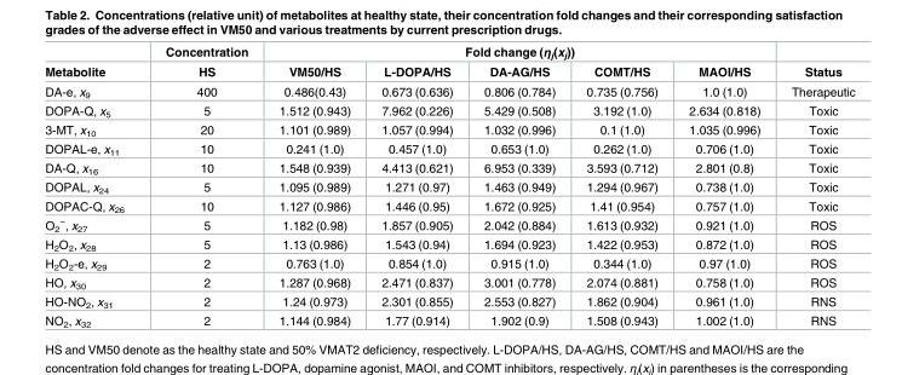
<table><thead><tr><td rowspan="2">Metabolite</td><td rowspan="2">Concentration HS</td><td colspan="5">Fold change (η<sub>j</sub>(x<sub>j</sub>))</td><td rowspan="2">Status</td></tr><tr><td>VM50/HS</td><td>L-DOPA/HS</td><td>DA-AG/HS</td><td>COMT/HS</td><td>MAOI/HS</td></tr></thead><tbody><tr><td>DA-e, x<sub>9</sub></td><td>400</td><td>0.486(0.43)</td><td>0.673 (0.636)</td><td>0.806 (0.784)</td><td>0.735 (0.756)</td><td>1.0 (1.0)</td><td>Therapeutic</td></tr><tr><td>DOPA-Q, x<sub>5</sub></td><td>5</td><td>1.512 (0.943)</td><td>7.962 (0.226)</td><td>5.429 (0.508)</td><td>3.192 (1.0)</td><td>2.634 (0.818)</td><td>Toxic</td></tr><tr><td>3-MT, x<sub>10</sub></td><td>20</td><td>1.101 (0.989)</td><td>1.057 (0.994)</td><td>1.032 (0.996)</td><td>0.1 (1.0)</td><td>1.035 (0.996)</td><td>Toxic</td></tr><tr><td>DOPAL-e, x<sub>11</sub></td><td>10</td><td>0.241 (1.0)</td><td>0.457 (1.0)</td><td>0.653 (1.0)</td><td>0.262 (1.0)</td><td>0.706 (1.0)</td><td>Toxic</td></tr><tr><td>DA-Q, x<sub>16</sub></td><td>10</td><td>1.548 (0.939)</td><td>4.413 (0.621)</td><td>6.953 (0.339)</td><td>3.593 (0.712)</td><td>2.801 (0.8)</td><td>Toxic</td></tr><tr><td>DOPAL, x<sub>24</sub></td><td>5</td><td>1.095 (0.989)</td><td>1.271 (0.97)</td><td>1.463 (0.949)</td><td>1.294 (0.967)</td><td>0.738 (1.0)</td><td>Toxic</td></tr><tr><td>DOPAC-Q, x<sub>26</sub></td><td>10</td><td>1.127 (0.986)</td><td>1.446 (0.95)</td><td>1.672 (0.925)</td><td>1.41 (0.954)</td><td>0.757 (1.0)</td><td>Toxic</td></tr><tr><td>O<sub>2</sub> <sup>−</sup>, x<sub>27</sub></td><td>5</td><td>1.182 (0.98)</td><td>1.857 (0.905)</td><td>2.042 (0.884)</td><td>1.613 (0.932)</td><td>0.921 (1.0)</td><td>ROS</td></tr><tr><td>H<sub>2</sub>O<sub>2</sub>, x<sub>28</sub></td><td>5</td><td>1.13 (0.986)</td><td>1.543 (0.94)</td><td>1.694 (0.923)</td><td>1.422 (0.953)</td><td>0.872 (1.0)</td><td>ROS</td></tr><tr><td>H<sub>2</sub>O<sub>2</sub>-e, x<sub>29</sub></td><td>2</td><td>0.763 (1.0)</td><td>0.854 (1.0)</td><td>0.915 (1.0)</td><td>0.344 (1.0)</td><td>0.97 (1.0)</td><td>ROS</td></tr><tr><td>HO, x<sub>30</sub></td><td>2</td><td>1.287 (0.968)</td><td>2.471 (0.837)</td><td>3.001 (0.778)</td><td>2.074 (0.881)</td><td>0.758 (1.0)</td><td>ROS</td></tr><tr><td>HO-NO<sub>2</sub>, x<sub>31</sub></td><td>2</td><td>1.24 (0.973)</td><td>2.301 (0.855)</td><td>2.553 (0.827)</td><td>1.862 (0.904)</td><td>0.961 (1.0)</td><td>RNS</td></tr><tr><td>NO<sub>2</sub>, x<sub>32</sub></td><td>2</td><td>1.144 (0.984)</td><td>1.77 (0.914)</td><td>1.902 (0.9)</td><td>1.508 (0.943)</td><td>1.002 (1.0)</td><td>RNS</td></tr></tbody></table>